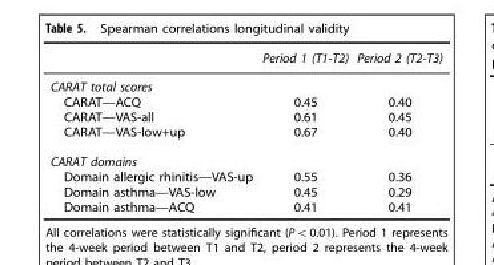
<table><thead><tr><td></td><td>Period 1 (T1-T2)</td><td>Period 2 (T2-T3)</td></tr></thead><tbody><tr><td colspan="3">CARAT total scores</td></tr><tr><td>CARAT—ACQ</td><td>0.45</td><td>0.40</td></tr><tr><td>CARAT—VAS-all</td><td>0.61</td><td>0.45</td></tr><tr><td>CARAT—VAS-low+up</td><td>0.67</td><td>0.40</td></tr><tr><td colspan="3">CARAT domains</td></tr><tr><td>Domain allergic rhinitis—VAS-up</td><td>0.55</td><td>0.36</td></tr><tr><td>Domain asthma—VAS-low</td><td>0.45</td><td>0.29</td></tr><tr><td>Domain asthma—ACQ</td><td>0.41</td><td>0.41</td></tr></tbody></table>